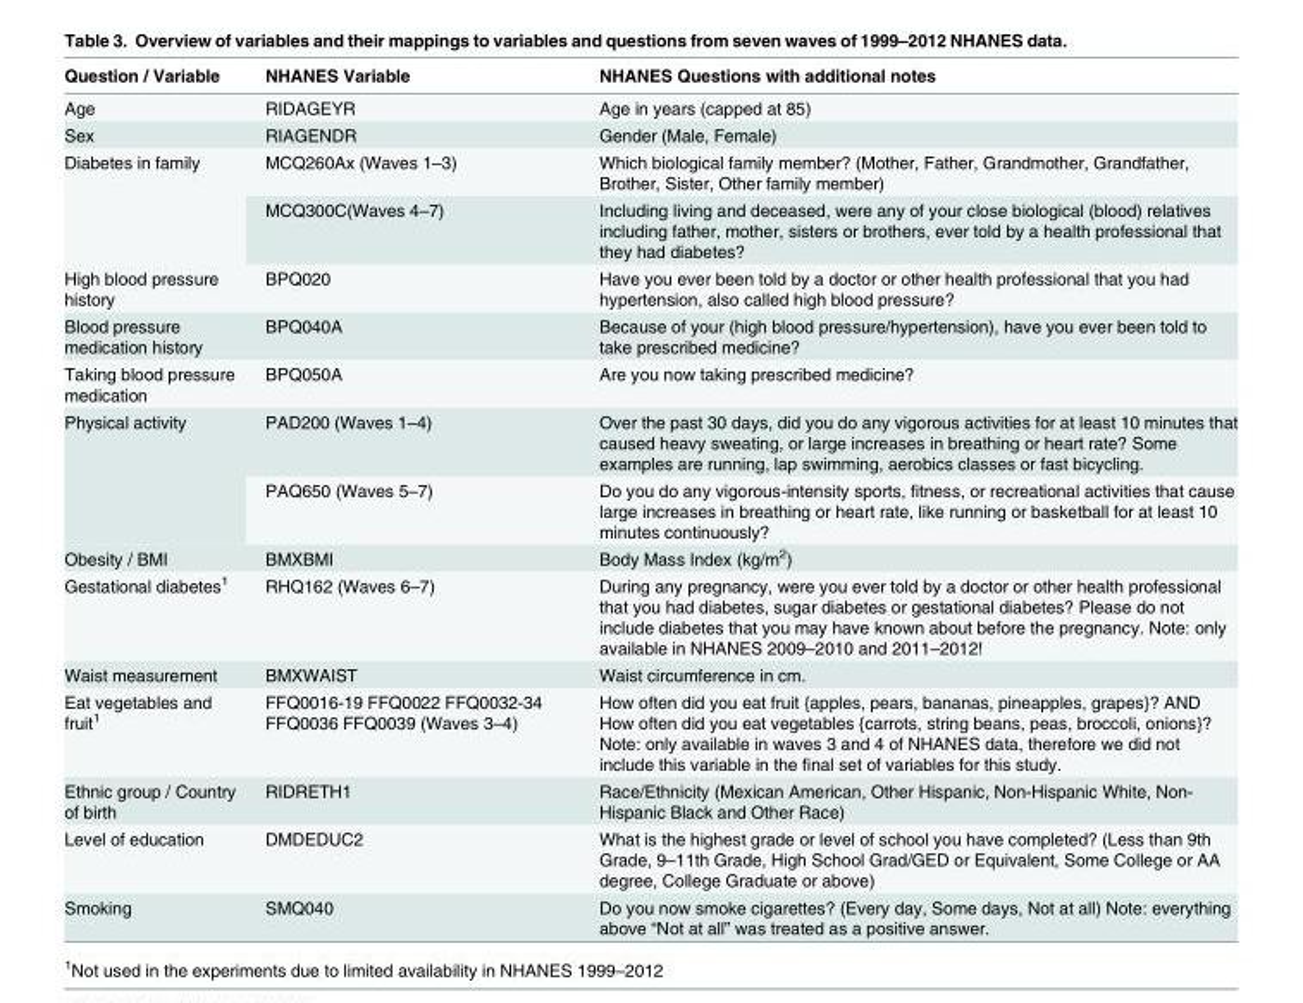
<table><thead><tr><td>Question / Variable</td><td>NHANES Variable</td><td>NHANES Questions with additional notes</td></tr></thead><tbody><tr><td>Age</td><td>RIDAGEYR</td><td>Age in years (capped at 85)</td></tr><tr><td>Sex</td><td>RIAGENDR</td><td>Gender (Male, Female)</td></tr><tr><td rowspan="2">Diabetes in family</td><td>MCQ260Ax (Waves 1–3)</td><td>Which biological family member? (Mother, Father, Grandmother, Grandfather, Brother, Sister, Other family member)</td></tr><tr><td>MCQ300C(Waves 4–7)</td><td>Including living and deceased, were any of your close biological (blood) relatives including father, mother, sisters or brothers, ever told by a health professional that they had diabetes?</td></tr><tr><td>High blood pressure history</td><td>BPQ020</td><td>Have you ever been told by a doctor or other health professional that you had hypertension, also called high blood pressure?</td></tr><tr><td>Blood pressure medication history</td><td>BPQ040A</td><td>Because of your (high blood pressure/hypertension), have you ever been told to take prescribed medicine?</td></tr><tr><td>Taking blood pressure medication</td><td>BPQ050A</td><td>Are you now taking prescribed medicine?</td></tr><tr><td rowspan="2">Physical activity</td><td>PAD200 (Waves 1–4)</td><td>Over the past 30 days, did you do any vigorous activities for at least 10 minutes that caused heavy sweating, or large increases in breathing or heart rate? Some examples are running, lap swimming, aerobics classes or fast bicycling.</td></tr><tr><td>PAQ650 (Waves 5–7)</td><td>Do you do any vigorous-intensity sports, fitness, or recreational activities that cause large increases in breathing or heart rate, like running or basketball for at least 10 minutes continuously?</td></tr><tr><td>Obesity / BMI</td><td>BMXBMI</td><td>Body Mass Index (kg/m<sup>2</sup>)</td></tr><tr><td>Gestational diabetes<sup>1</sup></td><td>RHQ162 (Waves 6–7)</td><td>During any pregnancy, were you ever told by a doctor or other health professional that you had diabetes, sugar diabetes or gestational diabetes? Please do not include diabetes that you may have known about before the pregnancy. Note: only available in NHANES 2009–2010 and 2011–2012!</td></tr><tr><td>Waist measurement</td><td>BMXWAIST</td><td>Waist circumference in cm.</td></tr><tr><td>Eat vegetables and fruit<sup>1</sup></td><td>FFQ0016-19 FFQ0022 FFQ0032-34 FFQ0036 FFQ0039 (Waves 3–4)</td><td>How often did you eat fruit {apples, pears, bananas, pineapples, grapes}? AND How often did you eat vegetables {carrots, string beans, peas, broccoli, onions}? Note: only available in waves 3 and 4 of NHANES data, therefore we did not include this variable in the final set of variables for this study.</td></tr><tr><td>Ethnic group / Country of birth</td><td>RIDRETH1</td><td>Race/Ethnicity (Mexican American, Other Hispanic, Non-Hispanic White, Non- Hispanic Black and Other Race)</td></tr><tr><td>Level of education</td><td>DMDEDUC2</td><td>What is the highest grade or level of school you have completed? (Less than 9th Grade, 9–11th Grade, High School Grad/GED or Equivalent, Some College or AA degree, College Graduate or above)</td></tr><tr><td>Smoking</td><td>SMQ040</td><td>Do you now smoke cigarettes? (Every day, Some days, Not at all) Note: everything above “Not at all” was treated as a positive answer.</td></tr></tbody></table>